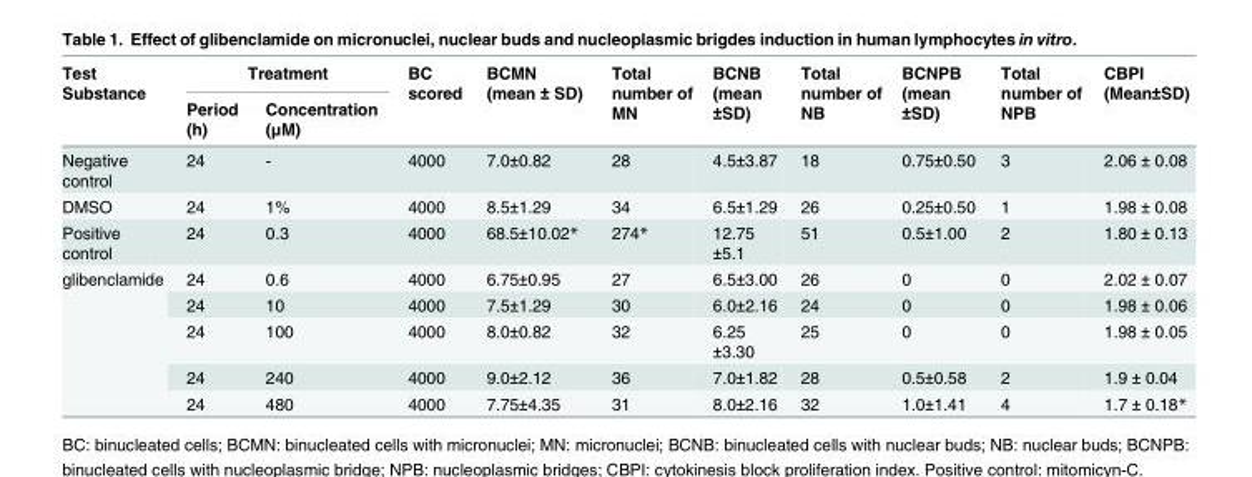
<table><thead><tr><td rowspan="2">Test Substance</td><td colspan="2">Treatment</td><td rowspan="2">BC scored</td><td rowspan="2">BCMN (mean ± SD)</td><td rowspan="2">Total number of MN</td><td rowspan="2">BCNB (mean ±SD)</td><td rowspan="2">Total number of NB</td><td rowspan="2">BCNPB (mean ±SD)</td><td rowspan="2">Total number of NPB</td><td rowspan="2">CBPI (Mean±SD)</td></tr><tr><td>Period (h)</td><td>Concentration (μM)</td></tr></thead><tbody><tr><td>Negative control</td><td>24</td><td>-</td><td>4000</td><td>7.0±0.82</td><td>28</td><td>4.5±3.87</td><td>18</td><td>0.75±0.50</td><td>3</td><td>2.06 ± 0.08</td></tr><tr><td>DMSO</td><td>24</td><td>1%</td><td>4000</td><td>8.5±1.29</td><td>34</td><td>6.5±1.29</td><td>26</td><td>0.25±0.50</td><td>1</td><td>1.98 ± 0.08</td></tr><tr><td>Positive control</td><td>24</td><td>0.3</td><td>4000</td><td>68.5±10.02*</td><td>274*</td><td>12.75 ±5.1</td><td>51</td><td>0.5±1.00</td><td>2</td><td>1.80 ± 0.13</td></tr><tr><td rowspan="5">glibenclamide</td><td>24</td><td>0.6</td><td>4000</td><td>6.75±0.95</td><td>27</td><td>6.5±3.00</td><td>26</td><td>0</td><td>0</td><td>2.02 ± 0.07</td></tr><tr><td>24</td><td>10</td><td>4000</td><td>7.5±1.29</td><td>30</td><td>6.0±2.16</td><td>24</td><td>0</td><td>0</td><td>1.98 ± 0.06</td></tr><tr><td>24</td><td>100</td><td>4000</td><td>8.0±0.82</td><td>32</td><td>6.25 ±3.30</td><td>25</td><td>0</td><td>0</td><td>1.98 ± 0.05</td></tr><tr><td>24</td><td>240</td><td>4000</td><td>9.0±2.12</td><td>36</td><td>7.0±1.82</td><td>28</td><td>0.5±0.58</td><td>2</td><td>1.9 ± 0.04</td></tr><tr><td>24</td><td>480</td><td>4000</td><td>7.75±4.35</td><td>31</td><td>8.0±2.16</td><td>32</td><td>1.0±1.41</td><td>4</td><td>1.7 ± 0.18*</td></tr></tbody></table>